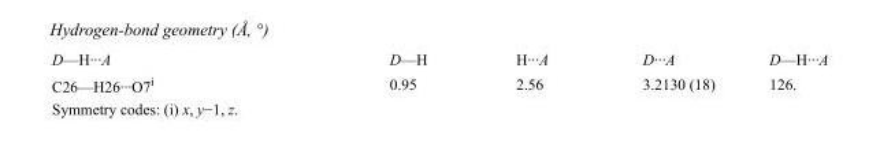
<table><tbody><tr><td>D—H···A</td><td>D—H</td><td>H···A</td><td>D···A</td><td>D—H···A</td></tr><tr><td>C26—H26···O7<sup>i</sup></td><td>0.95</td><td>2.56</td><td>3.2130 (18)</td><td>126.</td></tr></tbody></table>